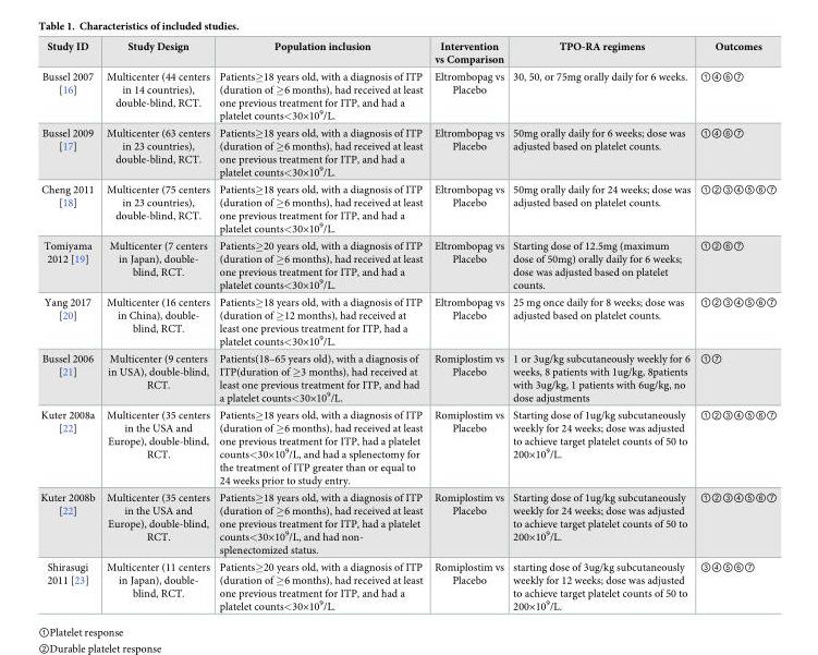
<table><thead><tr><td>Study ID</td><td>Study Design</td><td>Population inclusion</td><td>Intervention vs Comparison</td><td>TPO-RA regimens</td><td>Outcomes</td></tr></thead><tbody><tr><td>Bussel 2007 [16]</td><td>Multicenter (44 centers in 14 countries), double-blind, RCT.</td><td>Patients≥18 years old, with a diagnosis of ITP (duration of ≥6 months), had received at least one previous treatment for ITP, and had a platelet counts&lt;30×10<sup>9</sup>/L.</td><td>Eltrombopag vs Placebo</td><td>30, 50, or 75mg orally daily for 6 weeks.</td><td>①④⑥⑦</td></tr><tr><td>Bussel 2009 [17]</td><td>Multicenter (63 centers in 23 countries), double-blind, RCT.</td><td>Patients≥18 years old, with a diagnosis of ITP (duration of ≥6 months), had received at least one previous treatment for ITP, and had a platelet counts&lt;30×10<sup>9</sup>/L.</td><td>Eltrombopag vs Placebo</td><td>50mg orally daily for 6 weeks; dose was adjusted based on platelet counts.</td><td>①④⑥⑦</td></tr><tr><td>Cheng 2011 [18]</td><td>Multicenter (75 centers in 23 countries), double-blind, RCT.</td><td>Patients≥18 years old, with a diagnosis of ITP (duration of ≥6 months), had received at least one previous treatment for ITP, and had a platelet counts&lt;30×10<sup>9</sup>/L.</td><td>Eltrombopag vs Placebo</td><td>50mg orally daily for 24 weeks; dose was adjusted based on platelet counts.</td><td>①②③④⑤⑥⑦</td></tr><tr><td>Tomiyama 2012 [19]</td><td>Multicenter (7 centers in Japan), double- blind, RCT.</td><td>Patients≥20 years old, with a diagnosis of ITP (duration of ≥6 months), had received at least one previous treatment for ITP, and had a platelet counts&lt;30×10<sup>9</sup>/L.</td><td>Eltrombopag vs Placebo</td><td>Starting dose of 12.5mg (maximum dose of 50mg) orally daily for 6 weeks; dose was adjusted based on platelet counts.</td><td>①②⑥⑦</td></tr><tr><td>Yang 2017 [20]</td><td>Multicenter (16 centers in China), double- blind, RCT.</td><td>Patients≥18 years old, with a diagnosis of ITP (duration of ≥12 months), had received at least one previous treatment for ITP, had a platelet counts&lt;30×10<sup>9</sup>/L.</td><td>Eltrombopag vs Placebo</td><td>25 mg once daily for 8 weeks; dose was adjusted based on platelet counts.</td><td>①②③④⑤⑥⑦</td></tr><tr><td>Bussel 2006 [21]</td><td>Multicenter (9 centers in USA), double-blind, RCT.</td><td>Patients(18–65 years old), with a diagnosis of ITP(duration of ≥3 months), had received at least one previous treatment for ITP, and had a platelet counts&lt;30×10<sup>9</sup>/L.</td><td>Romiplostim vs Placebo</td><td>1 or 3ug/kg subcutaneously weekly for 6 weeks, 8 patients with 1ug/kg, 8patients with 3ug/kg, 1 patients with 6ug/kg, no dose adjustments</td><td>①⑦</td></tr><tr><td>Kuter 2008a [22]</td><td>Multicenter (35 centers in the USA and Europe), double-blind, RCT.</td><td>Patients≥18 years old, with a diagnosis of ITP (duration of ≥6 months), had received at least one previous treatment for ITP, had a platelet counts&lt;30×10<sup>9</sup>/L, and had a splenectomy for the treatment of ITP greater than or equal to 24 weeks prior to study entry.</td><td>Romiplostim vs Placebo</td><td>Starting dose of 1ug/kg subcutaneously weekly for 24 weeks; dose was adjusted to achieve target platelet counts of 50 to 200×10<sup>9</sup>/L.</td><td>①②③④⑤⑥⑦</td></tr><tr><td>Kuter 2008b [22]</td><td>Multicenter (35 centers in the USA and Europe), double-blind, RCT.</td><td>Patients≥18 years old, with a diagnosis of ITP (duration of ≥6 months), had received at least one previous treatment for ITP, had a platelet counts&lt;30×10<sup>9</sup>/L, and had non- splenectomized status.</td><td>Romiplostim vs Placebo</td><td>Starting dose of 1ug/kg subcutaneously weekly for 24 weeks; dose was adjusted to achieve target platelet counts of 50 to 200×10<sup>9</sup>/L.</td><td>①②③④⑤⑥⑦</td></tr><tr><td>Shirasugi 2011 [23]</td><td>Multicenter (11 centers in Japan), double- blind, RCT.</td><td>Patients≥20 years old, with a diagnosis of ITP (duration of ≥6 months), had received at least one previous treatment for ITP, and had a platelet counts&lt;30×10<sup>9</sup>/L.</td><td>Romiplostim vs Placebo</td><td>starting dose of 3ug/kg subcutaneously weekly for 12 weeks; dose was adjusted to achieve target platelet counts of 50 to 200×10<sup>9</sup>/L.</td><td>③④⑤⑥⑦</td></tr></tbody></table>